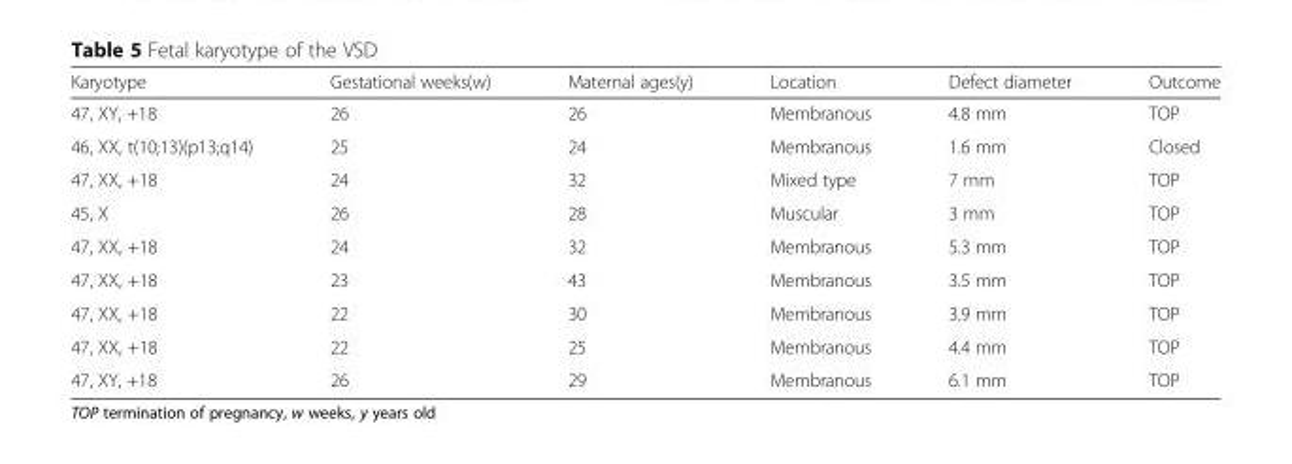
<table><thead><tr><td>Karyotype</td><td>Gestational weeks(w)</td><td>Maternal ages(y)</td><td>Location</td><td>Defect diameter</td><td>Outcome</td></tr></thead><tbody><tr><td>47, XY, +18</td><td>26</td><td>26</td><td>Membranous</td><td>4.8 mm</td><td>TOP</td></tr><tr><td>46, XX, t(10;13)(p13;q14)</td><td>25</td><td>24</td><td>Membranous</td><td>1.6 mm</td><td>Closed</td></tr><tr><td>47, XX, +18</td><td>24</td><td>32</td><td>Mixed type</td><td>7 mm</td><td>TOP</td></tr><tr><td>45, X</td><td>26</td><td>28</td><td>Muscular</td><td>3 mm</td><td>TOP</td></tr><tr><td>47, XX, +18</td><td>24</td><td>32</td><td>Membranous</td><td>5.3 mm</td><td>TOP</td></tr><tr><td>47, XX, +18</td><td>23</td><td>43</td><td>Membranous</td><td>3.5 mm</td><td>TOP</td></tr><tr><td>47, XX, +18</td><td>22</td><td>30</td><td>Membranous</td><td>3.9 mm</td><td>TOP</td></tr><tr><td>47, XX, +18</td><td>22</td><td>25</td><td>Membranous</td><td>4.4 mm</td><td>TOP</td></tr><tr><td>47, XY, +18</td><td>26</td><td>29</td><td>Membranous</td><td>6.1 mm</td><td>TOP</td></tr></tbody></table>